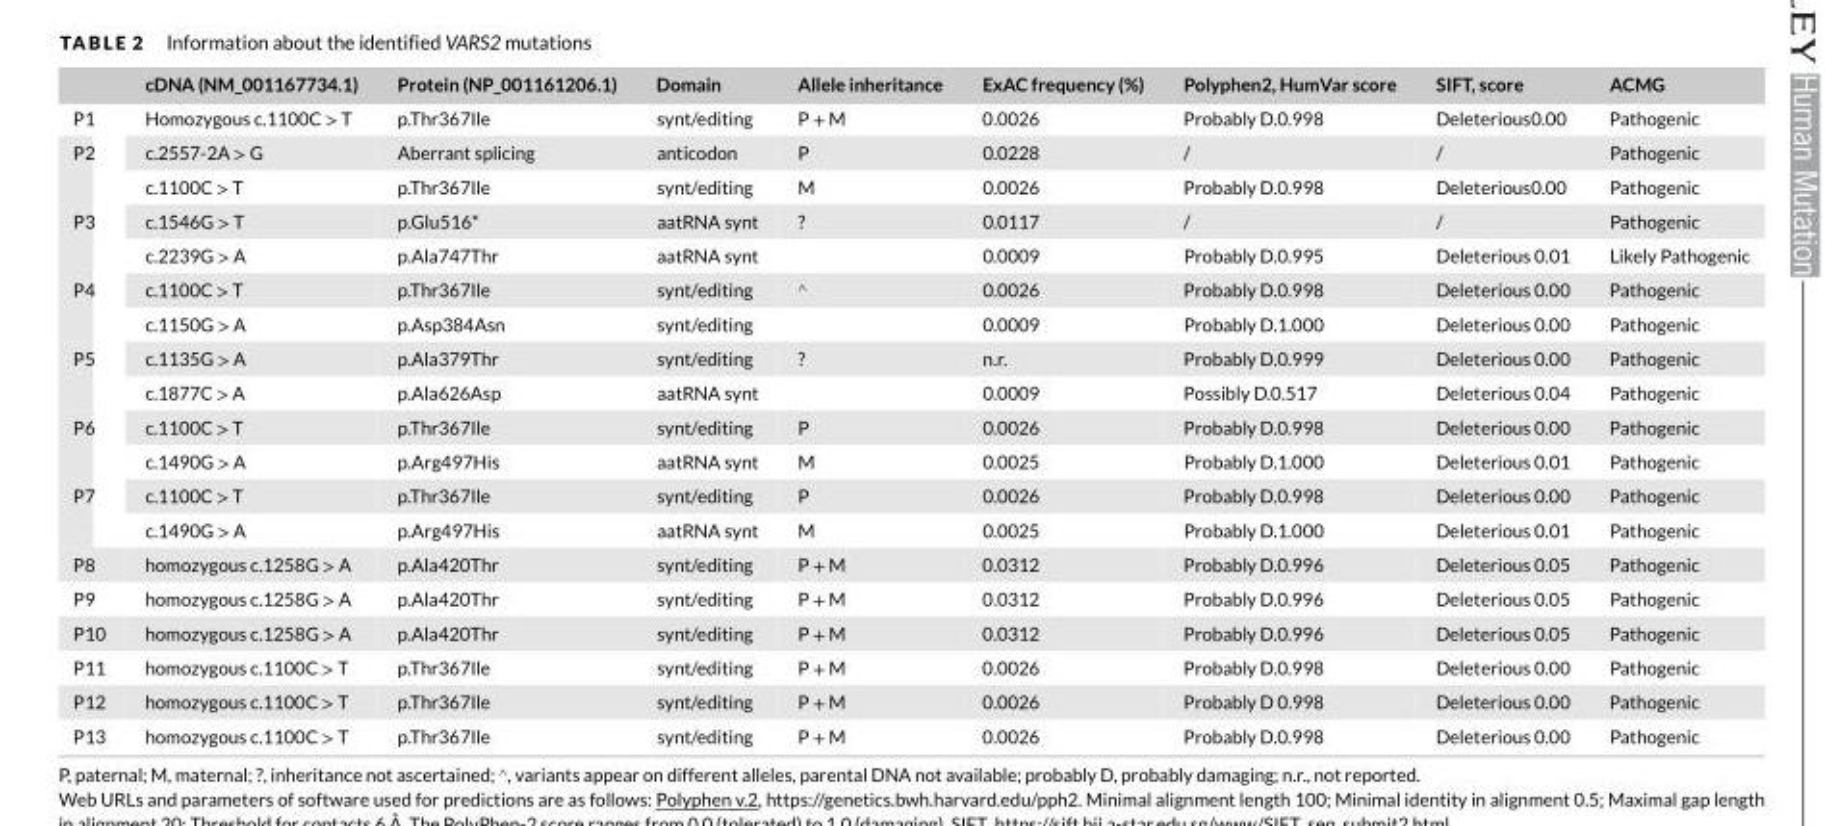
<table><thead><tr><td></td><td>cDNA (NM_001167734.1)</td><td>Protein (NP_001161206.1)</td><td>Domain</td><td>Allele inheritance</td><td>ExAC frequency (%)</td><td>Polyphen2, HumVar score</td><td>SIFT, score</td><td>ACMG</td></tr></thead><tbody><tr><td>P1</td><td>Homozygous c.1100C &gt; T</td><td>p.Thr367Ile</td><td>synt/editing</td><td>P + M</td><td>0.0026</td><td>Probably D.0.998</td><td>Deleterious0.00</td><td>Pathogenic</td></tr><tr><td rowspan="2">P2</td><td>c.2557-2A &gt; G</td><td>Aberrant splicing</td><td>anticodon</td><td>P</td><td>0.0228</td><td>/</td><td>/</td><td>Pathogenic</td></tr><tr><td>c.1100C &gt; T</td><td>p.Thr367Ile</td><td>synt/editing</td><td>M</td><td>0.0026</td><td>Probably D.0.998</td><td>Deleterious0.00</td><td>Pathogenic</td></tr><tr><td rowspan="2">P3</td><td>c.1546G &gt; T</td><td>p.Glu516*</td><td>aatRNA synt</td><td>?</td><td>0.0117</td><td>/</td><td>/</td><td>Pathogenic</td></tr><tr><td>c.2239G &gt; A</td><td>p.Ala747Thr</td><td>aatRNA synt</td><td></td><td>0.0009</td><td>Probably D.0.995</td><td>Deleterious 0.01</td><td>Likely Pathogenic</td></tr><tr><td rowspan="2">P4</td><td>c.1100C &gt; T</td><td>p.Thr367Ile</td><td>synt/editing</td><td>^</td><td>0.0026</td><td>Probably D.0.998</td><td>Deleterious 0.00</td><td>Pathogenic</td></tr><tr><td>c.1150G &gt; A</td><td>p.Asp384Asn</td><td>synt/editing</td><td></td><td>0.0009</td><td>Probably D.1.000</td><td>Deleterious 0.00</td><td>Pathogenic</td></tr><tr><td rowspan="2">P5</td><td>c.1135G &gt; A</td><td>p.Ala379Thr</td><td>synt/editing</td><td>?</td><td>n.r.</td><td>Probably D.0.999</td><td>Deleterious 0.00</td><td>Pathogenic</td></tr><tr><td>c.1877C &gt; A</td><td>p.Ala626Asp</td><td>aatRNA synt</td><td></td><td>0.0009</td><td>Possibly D.0.517</td><td>Deleterious 0.04</td><td>Pathogenic</td></tr><tr><td rowspan="2">P6</td><td>c.1100C &gt; T</td><td>p.Thr367Ile</td><td>synt/editing</td><td>P</td><td>0.0026</td><td>Probably D.0.998</td><td>Deleterious 0.00</td><td>Pathogenic</td></tr><tr><td>c.1490G &gt; A</td><td>p.Arg497His</td><td>aatRNA synt</td><td>M</td><td>0.0025</td><td>Probably D.1.000</td><td>Deleterious 0.01</td><td>Pathogenic</td></tr><tr><td rowspan="2">P7</td><td>c.1100C &gt; T</td><td>p.Thr367Ile</td><td>synt/editing</td><td>P</td><td>0.0026</td><td>Probably D.0.998</td><td>Deleterious 0.00</td><td>Pathogenic</td></tr><tr><td>c.1490G &gt; A</td><td>p.Arg497His</td><td>aatRNA synt</td><td>M</td><td>0.0025</td><td>Probably D.1.000</td><td>Deleterious 0.01</td><td>Pathogenic</td></tr><tr><td>P8</td><td>homozygous c.1258G &gt; A</td><td>p.Ala420Thr</td><td>synt/editing</td><td>P + M</td><td>0.0312</td><td>Probably D.0.996</td><td>Deleterious 0.05</td><td>Pathogenic</td></tr><tr><td>P9</td><td>homozygous c.1258G &gt; A</td><td>p.Ala420Thr</td><td>synt/editing</td><td>P + M</td><td>0.0312</td><td>Probably D.0.996</td><td>Deleterious 0.05</td><td>Pathogenic</td></tr><tr><td>P10</td><td>homozygous c.1258G &gt; A</td><td>p.Ala420Thr</td><td>synt/editing</td><td>P + M</td><td>0.0312</td><td>Probably D.0.996</td><td>Deleterious 0.05</td><td>Pathogenic</td></tr><tr><td>P11</td><td>homozygous c.1100C &gt; T</td><td>p.Thr367Ile</td><td>synt/editing</td><td>P + M</td><td>0.0026</td><td>Probably D.0.998</td><td>Deleterious 0.00</td><td>Pathogenic</td></tr><tr><td>P12</td><td>homozygous c.1100C &gt; T</td><td>p.Thr367Ile</td><td>synt/editing</td><td>P + M</td><td>0.0026</td><td>Probably D 0.998</td><td>Deleterious 0.00</td><td>Pathogenic</td></tr><tr><td>P13</td><td>homozygous c.1100C &gt; T</td><td>p.Thr367Ile</td><td>synt/editing</td><td>P + M</td><td>0.0026</td><td>Probably D.0.998</td><td>Deleterious 0.00</td><td>Pathogenic</td></tr></tbody></table>